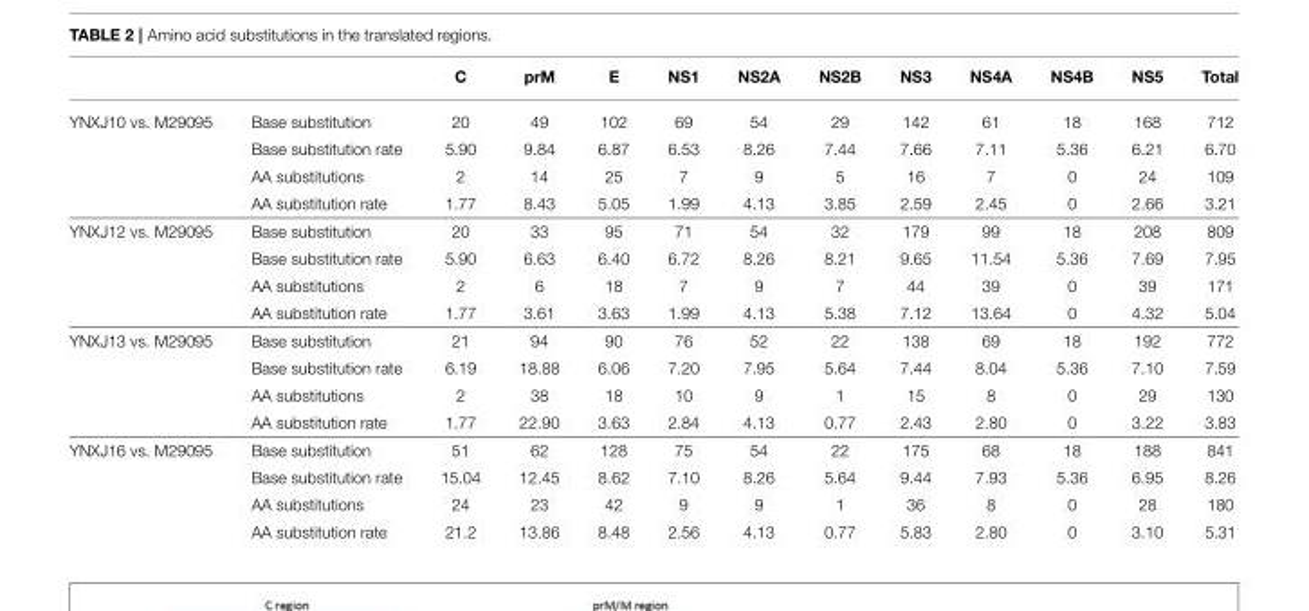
<table><thead><tr><td></td><td></td><td>C</td><td>prM</td><td>E</td><td>NS1</td><td>NS2A</td><td>NS2B</td><td>NS3</td><td>NS4A</td><td>NS4B</td><td>NS5</td><td>Total</td></tr></thead><tbody><tr><td rowspan="4">YNXJ10 vs. M29095</td><td>Base substitution</td><td>20</td><td>49</td><td>102</td><td>69</td><td>54</td><td>29</td><td>142</td><td>61</td><td>18</td><td>168</td><td>712</td></tr><tr><td>Base substitution rate</td><td>5.90</td><td>9.84</td><td>6.87</td><td>6.53</td><td>8.26</td><td>7.44</td><td>7.66</td><td>7.11</td><td>5.36</td><td>6.21</td><td>6.70</td></tr><tr><td>AA substitutions</td><td>2</td><td>14</td><td>25</td><td>7</td><td>9</td><td>5</td><td>16</td><td>7</td><td>0</td><td>24</td><td>109</td></tr><tr><td>AA substitution rate</td><td>1.77</td><td>8.43</td><td>5.05</td><td>1.99</td><td>4.13</td><td>3.85</td><td>2.59</td><td>2.45</td><td>0</td><td>2.66</td><td>3.21</td></tr><tr><td rowspan="4">YNXJ12 vs. M29095</td><td>Base substitution</td><td>20</td><td>33</td><td>95</td><td>71</td><td>54</td><td>32</td><td>179</td><td>99</td><td>18</td><td>208</td><td>809</td></tr><tr><td>Base substitution rate</td><td>5.90</td><td>6.63</td><td>6.40</td><td>6.72</td><td>8.26</td><td>8.21</td><td>9.65</td><td>11.54</td><td>5.36</td><td>7.69</td><td>7.95</td></tr><tr><td>AA substitutions</td><td>2</td><td>6</td><td>18</td><td>7</td><td>9</td><td>7</td><td>44</td><td>39</td><td>0</td><td>39</td><td>171</td></tr><tr><td>AA substitution rate</td><td>1.77</td><td>3.61</td><td>3.63</td><td>1.99</td><td>4.13</td><td>5.38</td><td>7.12</td><td>13.64</td><td>0</td><td>4.32</td><td>5.04</td></tr><tr><td rowspan="4">YNXJ13 vs. M29095</td><td>Base substitution</td><td>21</td><td>94</td><td>90</td><td>76</td><td>52</td><td>22</td><td>138</td><td>69</td><td>18</td><td>192</td><td>772</td></tr><tr><td>Base substitution rate</td><td>6.19</td><td>18.88</td><td>6.06</td><td>7.20</td><td>7.95</td><td>5.64</td><td>7.44</td><td>8.04</td><td>5.36</td><td>7.10</td><td>7.59</td></tr><tr><td>AA substitutions</td><td>2</td><td>38</td><td>18</td><td>10</td><td>9</td><td>1</td><td>15</td><td>8</td><td>0</td><td>29</td><td>130</td></tr><tr><td>AA substitution rate</td><td>1.77</td><td>22.90</td><td>3.63</td><td>2.84</td><td>4.13</td><td>0.77</td><td>2.43</td><td>2.80</td><td>0</td><td>3.22</td><td>3.83</td></tr><tr><td rowspan="4">YNXJ16 vs. M29095</td><td>Base substitution</td><td>51</td><td>62</td><td>128</td><td>75</td><td>54</td><td>22</td><td>175</td><td>68</td><td>18</td><td>188</td><td>841</td></tr><tr><td>Base substitution rate</td><td>15.04</td><td>12.45</td><td>8.62</td><td>7.10</td><td>8.26</td><td>5.64</td><td>9.44</td><td>7.93</td><td>5.36</td><td>6.95</td><td>8.26</td></tr><tr><td>AA substitutions</td><td>24</td><td>23</td><td>42</td><td>9</td><td>9</td><td>1</td><td>36</td><td>8</td><td>0</td><td>28</td><td>180</td></tr><tr><td>AA substitution rate</td><td>21.2</td><td>13.86</td><td>8.48</td><td>2.56</td><td>4.13</td><td>0.77</td><td>5.83</td><td>2.80</td><td>0</td><td>3.10</td><td>5.31</td></tr></tbody></table>